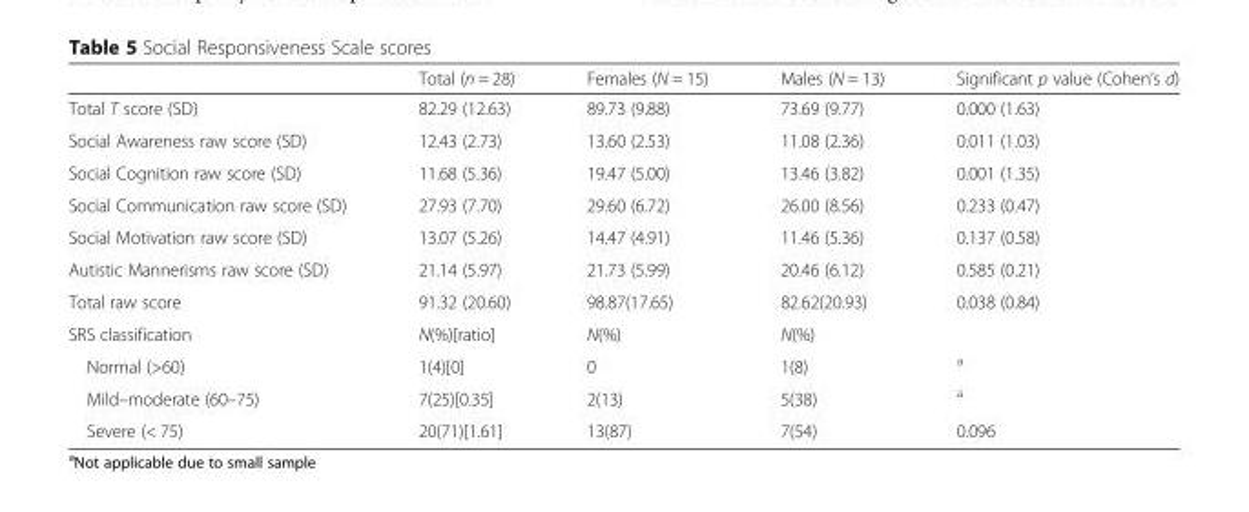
<table><thead><tr><td></td><td>Total (n = 28)</td><td>Females (N = 15)</td><td>Males (N = 13)</td><td>Significant p value (Cohen’s d)</td></tr></thead><tbody><tr><td>Total T score (SD)</td><td>82.29 (12.63)</td><td>89.73 (9.88)</td><td>73.69 (9.77)</td><td>0.000 (1.63)</td></tr><tr><td>Social Awareness raw score (SD)</td><td>12.43 (2.73)</td><td>13.60 (2.53)</td><td>11.08 (2.36)</td><td>0.011 (1.03)</td></tr><tr><td>Social Cognition raw score (SD)</td><td>11.68 (5.36)</td><td>19.47 (5.00)</td><td>13.46 (3.82)</td><td>0.001 (1.35)</td></tr><tr><td>Social Communication raw score (SD)</td><td>27.93 (7.70)</td><td>29.60 (6.72)</td><td>26.00 (8.56)</td><td>0.233 (0.47)</td></tr><tr><td>Social Motivation raw score (SD)</td><td>13.07 (5.26)</td><td>14.47 (4.91)</td><td>11.46 (5.36)</td><td>0.137 (0.58)</td></tr><tr><td>Autistic Mannerisms raw score (SD)</td><td>21.14 (5.97)</td><td>21.73 (5.99)</td><td>20.46 (6.12)</td><td>0.585 (0.21)</td></tr><tr><td>Total raw score</td><td>91.32 (20.60)</td><td>98.87(17.65)</td><td>82.62(20.93)</td><td>0.038 (0.84)</td></tr><tr><td>SRS classification</td><td>N(%)[ratio]</td><td>N(%)</td><td>N(%)</td><td></td></tr><tr><td>Normal (&gt;60)</td><td>1(4)[0]</td><td>0</td><td>1(8)</td><td><sup>a</sup></td></tr><tr><td>Mild–moderate (60–75)</td><td>7(25)[0.35]</td><td>2(13)</td><td>5(38)</td><td><sup>a</sup></td></tr><tr><td>Severe (&lt; 75)</td><td>20(71)[1.61]</td><td>13(87)</td><td>7(54)</td><td>0.096</td></tr></tbody></table>